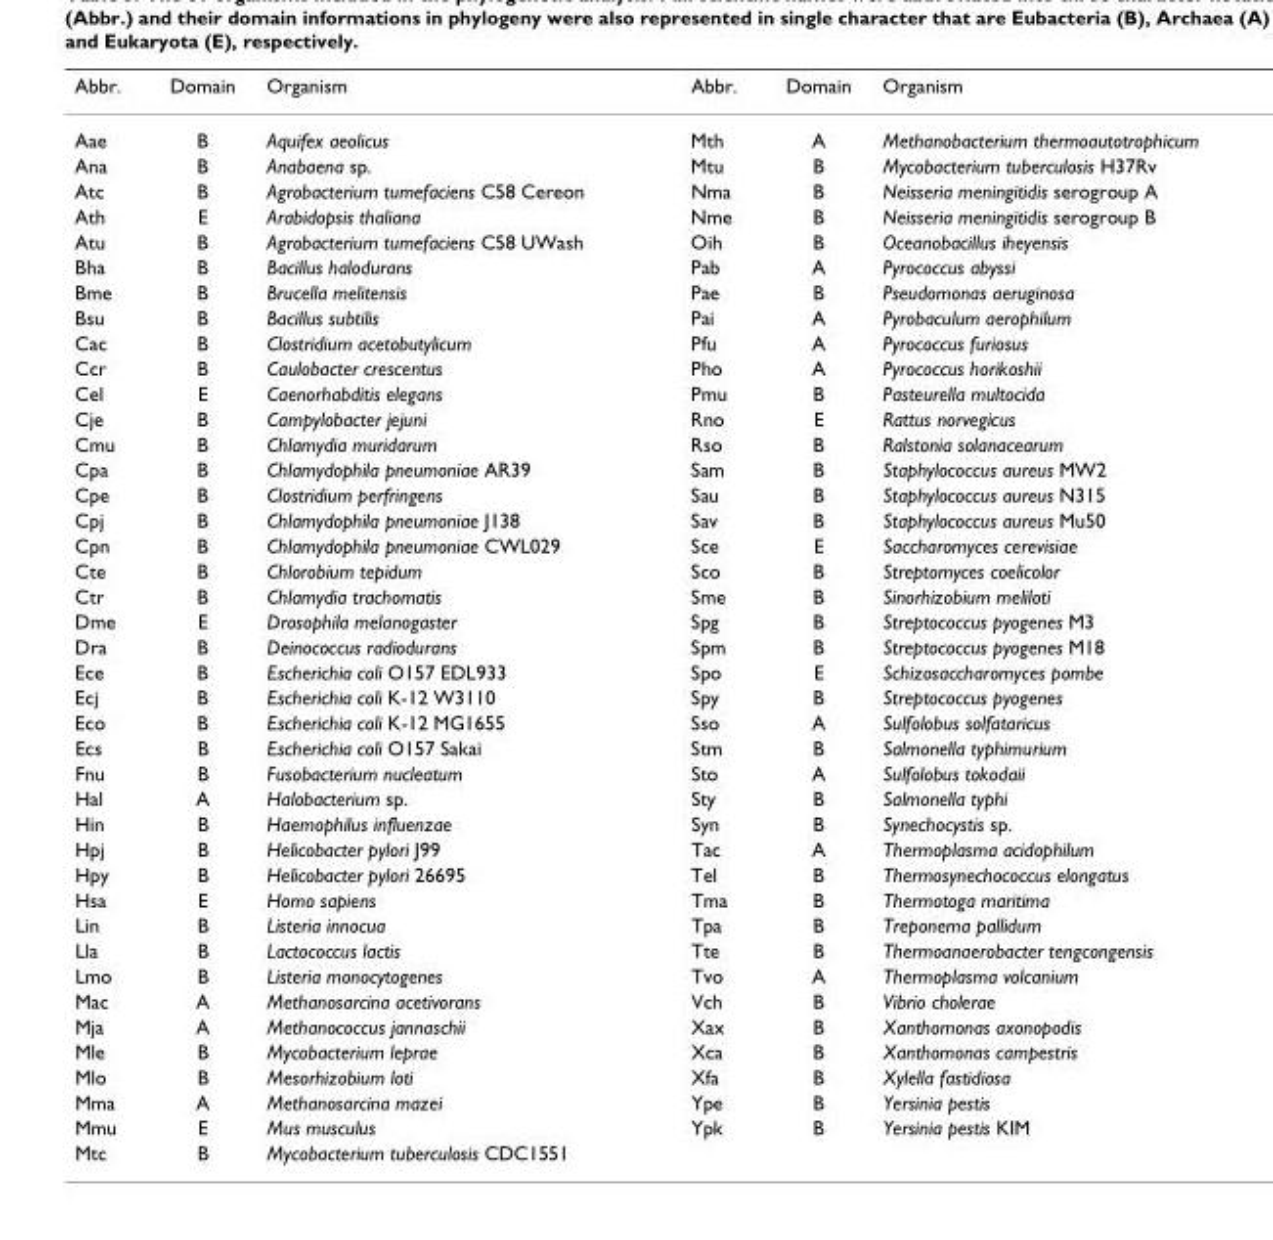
<table><thead><tr><td>Abbr.</td><td>Domain</td><td>Organism</td><td>Abbr.</td><td>Domain</td><td>Organism</td></tr></thead><tbody><tr><td>Aae</td><td>B</td><td>Aquifex aeolicus</td><td>Mth</td><td>A</td><td>Methanobacterium thermoautotrophicum</td></tr><tr><td>Ana</td><td>B</td><td>Anabaena sp.</td><td>Mtu</td><td>B</td><td>Mycobacterium tuberculosis H37Rv</td></tr><tr><td>Atc</td><td>B</td><td>Agrobacterium tumefaciens C58 Cereon</td><td>Nma</td><td>B</td><td>Neisseria meningitidis serogroup A</td></tr><tr><td>Ath</td><td>E</td><td>Arabidopsis thaliana</td><td>Nme</td><td>B</td><td>Neisseria meningitidis serogroup B</td></tr><tr><td>Atu</td><td>B</td><td>Agrobacterium tumefaciens C58 UWash</td><td>Oih</td><td>B</td><td>Oceanobacillus iheyensis</td></tr><tr><td>Bha</td><td>B</td><td>Bacillus halodurans</td><td>Pab</td><td>A</td><td>Pyrococcus abyssi</td></tr><tr><td>Bme</td><td>B</td><td>Brucella melitensis</td><td>Pae</td><td>B</td><td>Pseudomonas aeruginosa</td></tr><tr><td>Bsu</td><td>B</td><td>Bacillus subtilis</td><td>Pai</td><td>A</td><td>Pyrobaculum aerophilum</td></tr><tr><td>Cac</td><td>B</td><td>Clostridium acetobutylicum</td><td>Pfu</td><td>A</td><td>Pyrococcus furiosus</td></tr><tr><td>Ccr</td><td>B</td><td>Caulobacter crescentus</td><td>Pho</td><td>A</td><td>Pyrococcus horikoshii</td></tr><tr><td>Cel</td><td>E</td><td>Caenorhabditis elegans</td><td>Pmu</td><td>B</td><td>Pasteurella multocida</td></tr><tr><td>Cje</td><td>B</td><td>Campylobacter jejuni</td><td>Rno</td><td>E</td><td>Rattus norvegicus</td></tr><tr><td>Cmu</td><td>B</td><td>Chlamydia muridarum</td><td>Rso</td><td>B</td><td>Ralstonia solanacearum</td></tr><tr><td>Cpa</td><td>B</td><td>Chlamydophila pneumoniae AR39</td><td>Sam</td><td>B</td><td>Staphylococcus aureus MW2</td></tr><tr><td>Cpe</td><td>B</td><td>Clostridium perfringens</td><td>Sau</td><td>B</td><td>Staphylococcus aureus N315</td></tr><tr><td>Cpj</td><td>B</td><td>Chlamydophila pneumoniae J138</td><td>Sav</td><td>B</td><td>Staphylococcus aureus Mu50</td></tr><tr><td>Cpn</td><td>B</td><td>Chlamydophila pneumoniae CWL029</td><td>Sce</td><td>E</td><td>Saccharomyces cerevisiae</td></tr><tr><td>Cte</td><td>B</td><td>Chlorobium tepidum</td><td>Sco</td><td>B</td><td>Streptomyces coelicolor</td></tr><tr><td>Ctr</td><td>B</td><td>Chlamydia trachomatis</td><td>Sme</td><td>B</td><td>Sinorhizobium meliloti</td></tr><tr><td>Dme</td><td>E</td><td>Drosophila melanogaster</td><td>Spg</td><td>B</td><td>Streptococcus pyogenes M3</td></tr><tr><td>Dra</td><td>B</td><td>Deinococcus radiodurans</td><td>Spm</td><td>B</td><td>Streptococcus pyogenes M18</td></tr><tr><td>Ece</td><td>B</td><td>Escherichia coli O157 EDL933</td><td>Spo</td><td>E</td><td>Schizosaccharomyces pombe</td></tr><tr><td>Ecj</td><td>B</td><td>Escherichia coli K-12 W3110</td><td>Spy</td><td>B</td><td>Streptococcus pyogenes</td></tr><tr><td>Eco</td><td>B</td><td>Escherichia coli K-12 MG1655</td><td>Sso</td><td>A</td><td>Sulfolobus solfataricus</td></tr><tr><td>Ecs</td><td>B</td><td>Escherichia coli O157 Sakai</td><td>Stm</td><td>B</td><td>Salmonella typhimurium</td></tr><tr><td>Fnu</td><td>B</td><td>Fusobacterium nucleatum</td><td>Sto</td><td>A</td><td>Sulfolobus tokodaii</td></tr><tr><td>Hal</td><td>A</td><td>Halobacterium sp.</td><td>Sty</td><td>B</td><td>Salmonella typhi</td></tr><tr><td>Hin</td><td>B</td><td>Haemophilus influenzae</td><td>Syn</td><td>B</td><td>Synechocystis sp.</td></tr><tr><td>Hpj</td><td>B</td><td>Helicobacter pylori J99</td><td>Tac</td><td>A</td><td>Thermoplasma acidophilum</td></tr><tr><td>Hpy</td><td>B</td><td>Helicobacter pylori 26695</td><td>Tel</td><td>B</td><td>Thermosynechococcus elongatus</td></tr><tr><td>Hsa</td><td>E</td><td>Homo sapiens</td><td>Tma</td><td>B</td><td>Thermotoga maritima</td></tr><tr><td>Lin</td><td>B</td><td>Listeria innocua</td><td>Tpa</td><td>B</td><td>Treponema pallidum</td></tr><tr><td>Lla</td><td>B</td><td>Lactococcus lactis</td><td>Tte</td><td>B</td><td>Thermoanaerobacter tengcongensis</td></tr><tr><td>Lmo</td><td>B</td><td>Listeria monocytogenes</td><td>Tvo</td><td>A</td><td>Thermoplasma volcanium</td></tr><tr><td>Mac</td><td>A</td><td>Methanosarcina acetivorans</td><td>Vch</td><td>B</td><td>Vibrio cholerae</td></tr><tr><td>Mja</td><td>A</td><td>Methanococcus jannaschii</td><td>Xax</td><td>B</td><td>Xanthomonas axonopodis</td></tr><tr><td>Mle</td><td>B</td><td>Mycobacterium leprae</td><td>Xca</td><td>B</td><td>Xanthomonas campestris</td></tr><tr><td>Mlo</td><td>B</td><td>Mesorhizobium loti</td><td>Xfa</td><td>B</td><td>Xylella fastidiosa</td></tr><tr><td>Mma</td><td>A</td><td>Methanosarcina mazei</td><td>Ype</td><td>B</td><td>Yersinia pestis</td></tr><tr><td>Mmu</td><td>E</td><td>Mus musculus</td><td>Ypk</td><td>B</td><td>Yersinia pestis KIM</td></tr><tr><td>Mtc</td><td>B</td><td>Mycobacterium tuberculosis CDC1551</td><td></td><td></td><td></td></tr></tbody></table>